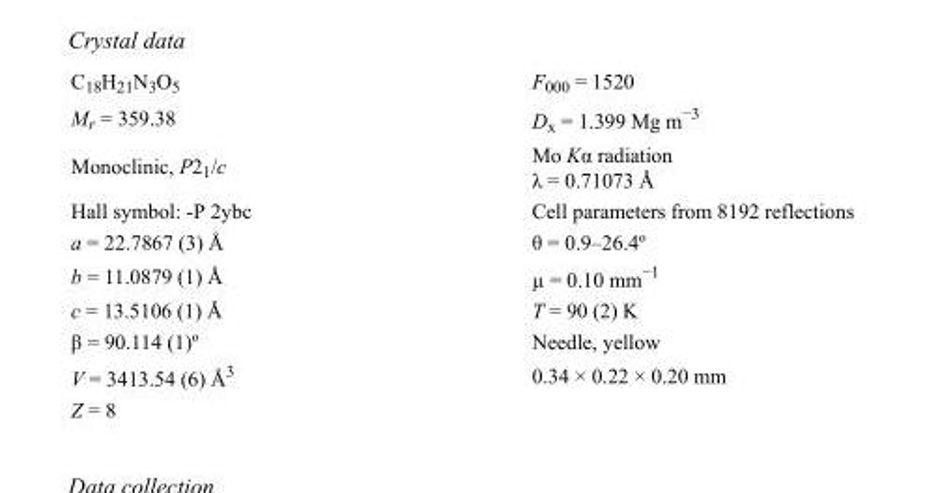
<table><tbody><tr><td>C<sub>18</sub>H<sub>21</sub>N<sub>3</sub>O<sub>5</sub></td><td>F<sub>000</sub> = 1520</td></tr><tr><td>M<sub>r</sub> = 359.38</td><td>D<sub>x</sub> = 1.399 Mg m<sup>−3</sup></td></tr><tr><td>Monoclinic, P2<sub>1</sub>/c</td><td>Mo Kα radiation λ = 0.71073 Å</td></tr><tr><td>Hall symbol: -P 2ybc</td><td>Cell parameters from 8192 reflections</td></tr><tr><td>a = 22.7867 (3) Å</td><td>θ = 0.9–26.4º</td></tr><tr><td>b = 11.0879 (1) Å</td><td>µ = 0.10 mm<sup>−1</sup></td></tr><tr><td>c = 13.5106 (1) Å</td><td>T = 90 (2) K</td></tr><tr><td>β = 90.114 (1)º</td><td>Needle, yellow</td></tr><tr><td>V = 3413.54 (6) Å<sup>3</sup></td><td>0.34 × 0.22 × 0.20 mm</td></tr><tr><td>Z = 8</td><td></td></tr></tbody></table>